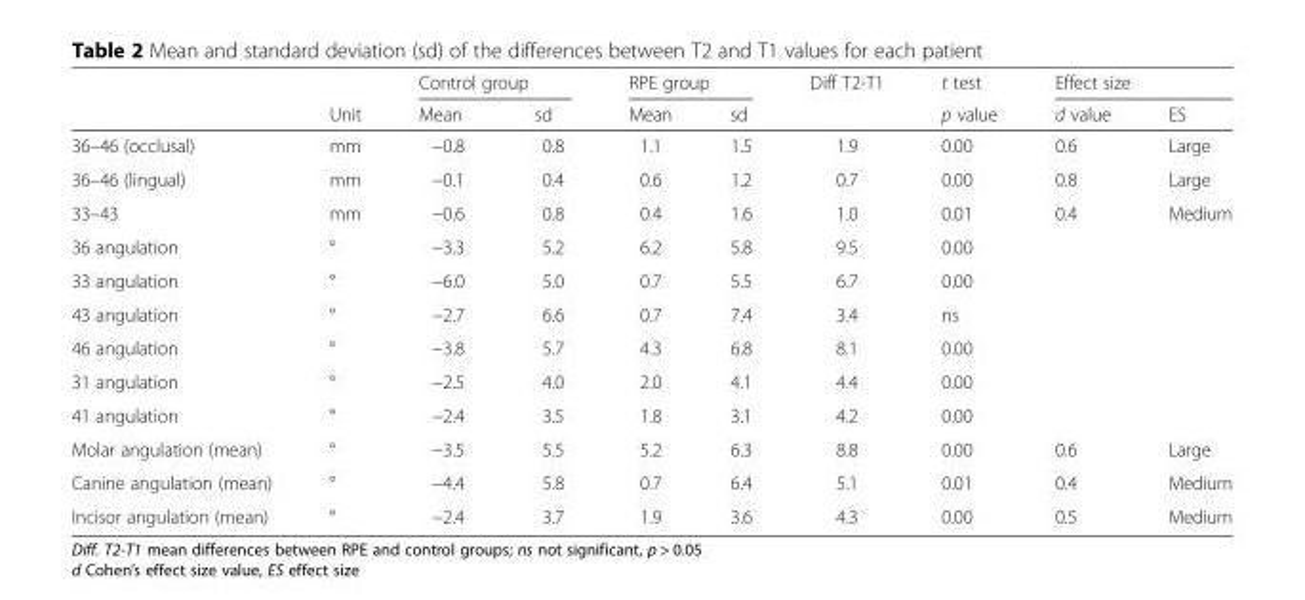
<table><thead><tr><td rowspan="2"></td><td rowspan="2">Unit</td><td colspan="2">Control group</td><td colspan="2">RPE group</td><td rowspan="2">Diff T2-T1</td><td rowspan="2">t test p value</td><td colspan="2">Effect size</td></tr><tr><td>Mean</td><td>sd</td><td>Mean</td><td>sd</td><td>d value</td><td>ES</td></tr></thead><tbody><tr><td>36–46 (occlusal)</td><td>mm</td><td>−0.8</td><td>0.8</td><td>1.1</td><td>1.5</td><td>1.9</td><td>0.00</td><td>0.6</td><td>Large</td></tr><tr><td>36–46 (lingual)</td><td>mm</td><td>−0.1</td><td>0.4</td><td>0.6</td><td>1.2</td><td>0.7</td><td>0.00</td><td>0.8</td><td>Large</td></tr><tr><td>33–43</td><td>mm</td><td>−0.6</td><td>0.8</td><td>0.4</td><td>1.6</td><td>1.0</td><td>0.01</td><td>0.4</td><td>Medium</td></tr><tr><td>36 angulation</td><td>°</td><td>−3.3</td><td>5.2</td><td>6.2</td><td>5.8</td><td>9.5</td><td>0.00</td><td></td><td></td></tr><tr><td>33 angulation</td><td>°</td><td>−6.0</td><td>5.0</td><td>0.7</td><td>5.5</td><td>6.7</td><td>0.00</td><td></td><td></td></tr><tr><td>43 angulation</td><td>°</td><td>−2.7</td><td>6.6</td><td>0.7</td><td>7.4</td><td>3.4</td><td>ns</td><td></td><td></td></tr><tr><td>46 angulation</td><td>°</td><td>−3.8</td><td>5.7</td><td>4.3</td><td>6.8</td><td>8.1</td><td>0.00</td><td></td><td></td></tr><tr><td>31 angulation</td><td>°</td><td>−2.5</td><td>4.0</td><td>2.0</td><td>4.1</td><td>4.4</td><td>0.00</td><td></td><td></td></tr><tr><td>41 angulation</td><td>°</td><td>−2.4</td><td>3.5</td><td>1.8</td><td>3.1</td><td>4.2</td><td>0.00</td><td></td><td></td></tr><tr><td>Molar angulation (mean)</td><td>°</td><td>−3.5</td><td>5.5</td><td>5.2</td><td>6.3</td><td>8.8</td><td>0.00</td><td>0.6</td><td>Large</td></tr><tr><td>Canine angulation (mean)</td><td>°</td><td>−4.4</td><td>5.8</td><td>0.7</td><td>6.4</td><td>5.1</td><td>0.01</td><td>0.4</td><td>Medium</td></tr><tr><td>Incisor angulation (mean)</td><td>°</td><td>−2.4</td><td>3.7</td><td>1.9</td><td>3.6</td><td>4.3</td><td>0.00</td><td>0.5</td><td>Medium</td></tr></tbody></table>